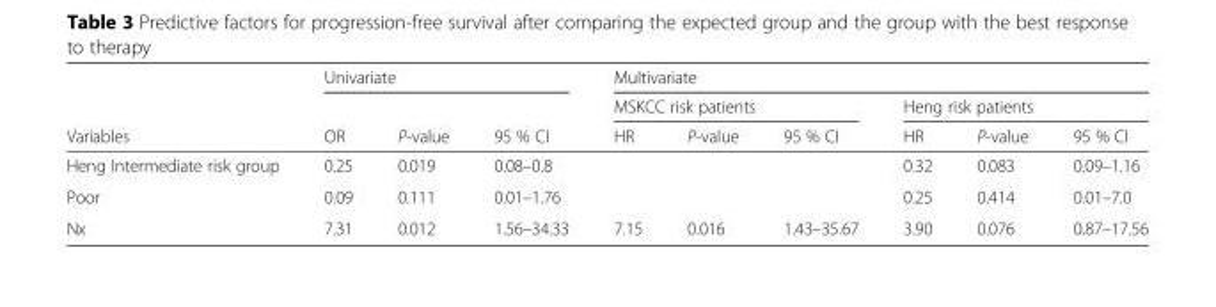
<table><thead><tr><td rowspan="3">Variables</td><td colspan="3">Univariate</td><td colspan="6">Multivariate</td></tr><tr><td rowspan="2">OR</td><td rowspan="2">P-value</td><td rowspan="2">95 % CI</td><td colspan="3">MSKCC risk patients</td><td colspan="3">Heng risk patients</td></tr><tr><td>HR</td><td>P-value</td><td>95 % CI</td><td>HR</td><td>P-value</td><td>95 % CI</td></tr></thead><tbody><tr><td>Heng Intermediate risk group</td><td>0.25</td><td>0.019</td><td>0.08–0.8</td><td></td><td></td><td></td><td>0.32</td><td>0.083</td><td>0.09–1.16</td></tr><tr><td>Poor</td><td>0.09</td><td>0.111</td><td>0.01–1.76</td><td></td><td></td><td></td><td>0.25</td><td>0.414</td><td>0.01–7.0</td></tr><tr><td>Nx</td><td>7.31</td><td>0.012</td><td>1.56–34.33</td><td>7.15</td><td>0.016</td><td>1.43–35.67</td><td>3.90</td><td>0.076</td><td>0.87–17.56</td></tr></tbody></table>